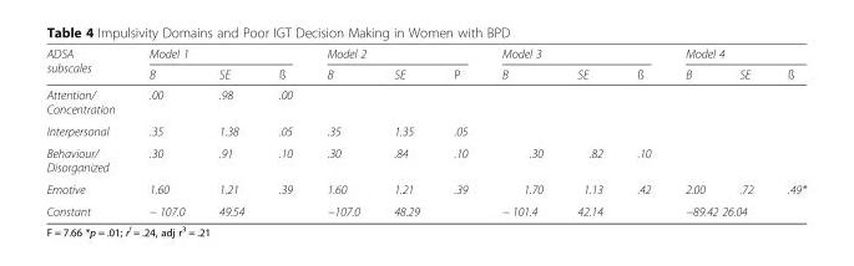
<table><thead><tr><td rowspan="2">ADSA subscales</td><td colspan="3">Model 1</td><td colspan="3">Model 2</td><td colspan="3">Model 3</td><td colspan="3">Model 4</td></tr><tr><td>B</td><td>SE</td><td>ß</td><td>B</td><td>SE</td><td>P</td><td>B</td><td>SE</td><td>ß</td><td>B</td><td>SE</td><td>ß</td></tr></thead><tbody><tr><td>Attention/ Concentration</td><td>.00</td><td>.98</td><td>.00</td><td></td><td></td><td></td><td></td><td></td><td></td><td></td><td></td><td></td></tr><tr><td>Interpersonal</td><td>.35</td><td>1.38</td><td>.05</td><td>.35</td><td>1.35</td><td>.05</td><td></td><td></td><td></td><td></td><td></td><td></td></tr><tr><td>Behaviour/ Disorganized</td><td>.30</td><td>.91</td><td>.10</td><td>.30</td><td>.84</td><td>.10</td><td>.30</td><td>.82</td><td>.10</td><td></td><td></td><td></td></tr><tr><td>Emotive</td><td>1.60</td><td>1.21</td><td>.39</td><td>1.60</td><td>1.21</td><td>.39</td><td>1.70</td><td>1.13</td><td>.42</td><td>2.00</td><td>.72</td><td>.49*</td></tr><tr><td>Constant</td><td>− 107.0</td><td>49.54</td><td></td><td>−107.0</td><td>48.29</td><td></td><td>− 101.4</td><td>42.14</td><td></td><td colspan="3">−89.42 26.04</td></tr></tbody></table>